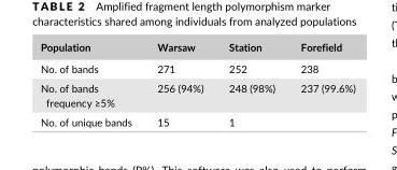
<table><thead><tr><td>Population</td><td>Warsaw</td><td>Station</td><td>Forefield</td></tr></thead><tbody><tr><td>No. of bands</td><td>271</td><td>252</td><td>238</td></tr><tr><td>No. of bands frequency ≥5%</td><td>256 (94%)</td><td>248 (98%)</td><td>237 (99.6%)</td></tr><tr><td>No. of unique bands</td><td>15</td><td colspan="2">1</td></tr></tbody></table>